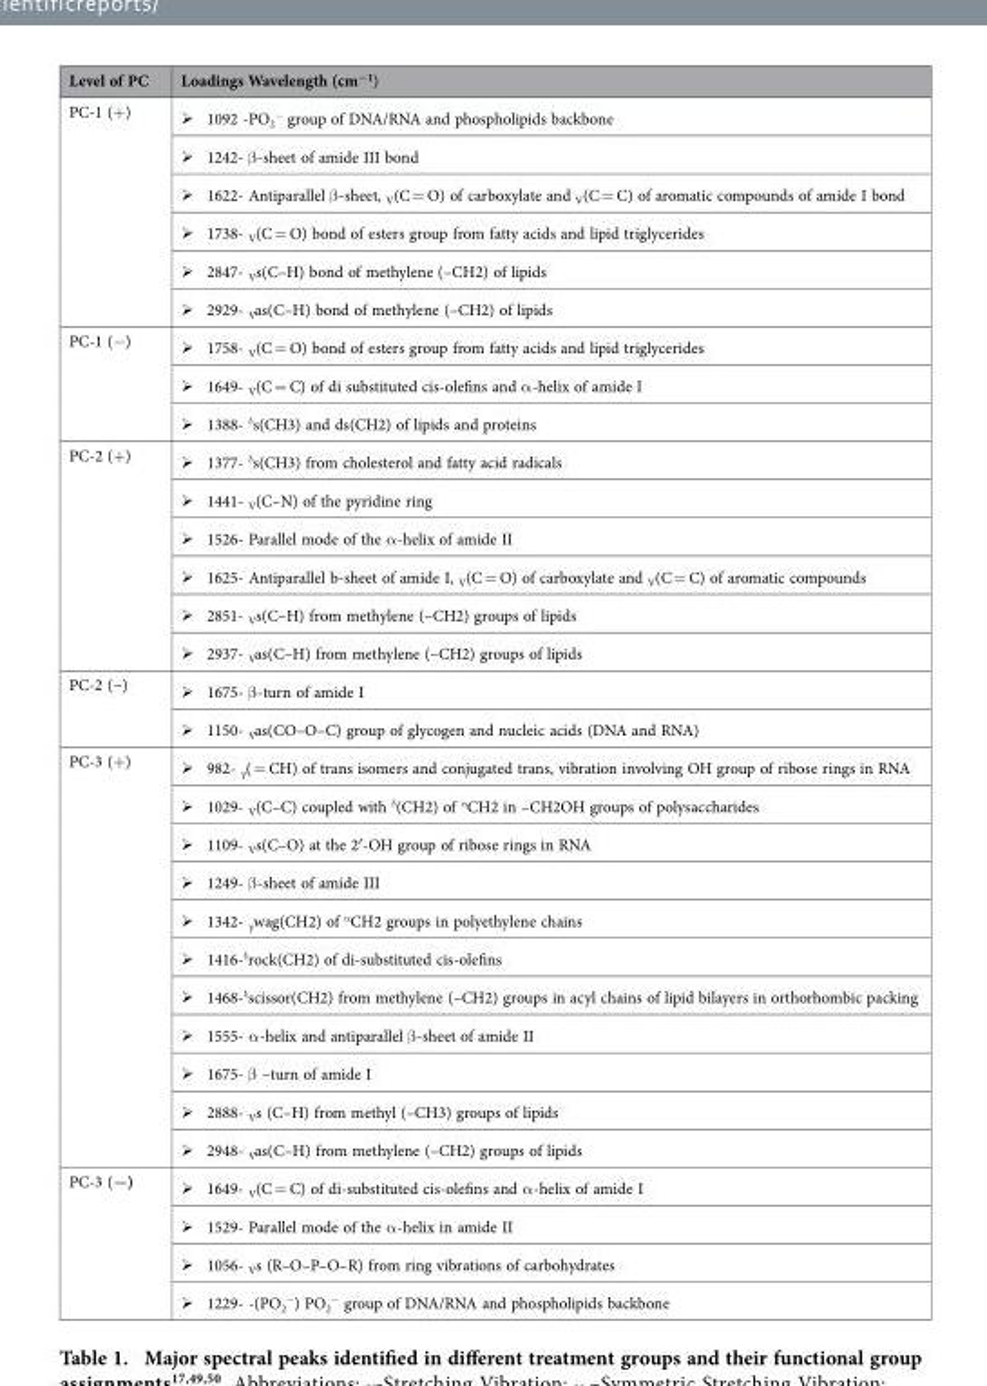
<table><thead><tr><td>Level of PC</td><td>Loadings Wavelength (cm−1)</td></tr></thead><tbody><tr><td rowspan="6">PC-1 (+)</td><td> 1092 -PO2 − group of DNA/RNA and phospholipids backbone</td></tr><tr><td> 1242- β -sheet of amide III bond</td></tr><tr><td> 1622- Antiparallel β -sheet, V(C = O) of carboxylate and V(C = C) of aromatic compounds of amide I bond</td></tr><tr><td> 1738- V(C = O) bond of esters group from fatty acids and lipid triglycerides</td></tr><tr><td> 2847- Vs(C–H) bond of methylene (–CH2) of lipids</td></tr><tr><td> 2929- Vas(C–H) bond of methylene (–CH2) of lipids</td></tr><tr><td rowspan="3">PC-1 (−)</td><td> 1758- V(C = O) bond of esters group from fatty acids and lipid triglycerides</td></tr><tr><td> 1649- V(C = C) of di substituted cis-olefins and α -helix of amide I</td></tr><tr><td> 1388- δs(CH3) and ds(CH2) of lipids and proteins</td></tr><tr><td rowspan="6">PC-2 (+)</td><td> 1377- δs(CH3) from cholesterol and fatty acid radicals</td></tr><tr><td> 1441- V(C–N) of the pyridine ring</td></tr><tr><td> 1526- Parallel mode of the α -helix of amide II</td></tr><tr><td> 1625- Antiparallel b-sheet of amide I, V(C = O) of carboxylate and V(C = C) of aromatic compounds</td></tr><tr><td> 2851- Vs(C–H) from methylene (–CH2) groups of lipids</td></tr><tr><td> 2937- Vas(C–H) from methylene (–CH2) groups of lipids</td></tr><tr><td rowspan="2">PC-2 (−)</td><td> 1675- β -turn of amide I</td></tr><tr><td> 1150- Vas(CO–O–C) group of glycogen and nucleic acids (DNA and RNA)</td></tr><tr><td rowspan="11">PC-3 (+)</td><td> 982- γ( = CH) of trans isomers and conjugated trans, vibration involving OH group of ribose rings in RNA</td></tr><tr><td> 1029- V(C–C) coupled with δ(CH2) of αCH2 in –CH2OH groups of polysaccharides</td></tr><tr><td> 1109- Vs(C–O) at the 2′-OH group of ribose rings in RNA</td></tr><tr><td> 1249- β -sheet of amide III</td></tr><tr><td> 1342- γwag(CH2) of αCH2 groups in polyethylene chains</td></tr><tr><td> 1416-δrock(CH2) of di-substituted cis-olefins</td></tr><tr><td> 1468-δscissor(CH2) from methylene (–CH2) groups in acyl chains of lipid bilayers in orthorhombic packing</td></tr><tr><td> 1555- α -helix and antiparallel β -sheet of amide II</td></tr><tr><td> 1675- β –turn of amide I</td></tr><tr><td> 2888- Vs (C–H) from methyl (–CH3) groups of lipids</td></tr><tr><td> 2948- Vas(C–H) from methylene (–CH2) groups of lipids</td></tr><tr><td rowspan="4">PC-3 (−)</td><td> 1649- V(C = C) of di-substituted cis-olefins and α -helix of amide I</td></tr><tr><td> 1529- Parallel mode of the α -helix in amide II</td></tr><tr><td> 1056- Vs (R–O–P–O–R) from ring vibrations of carbohydrates</td></tr><tr><td> 1229- -(PO2 −) PO2 − group of DNA/RNA and phospholipids backbone</td></tr></tbody></table>